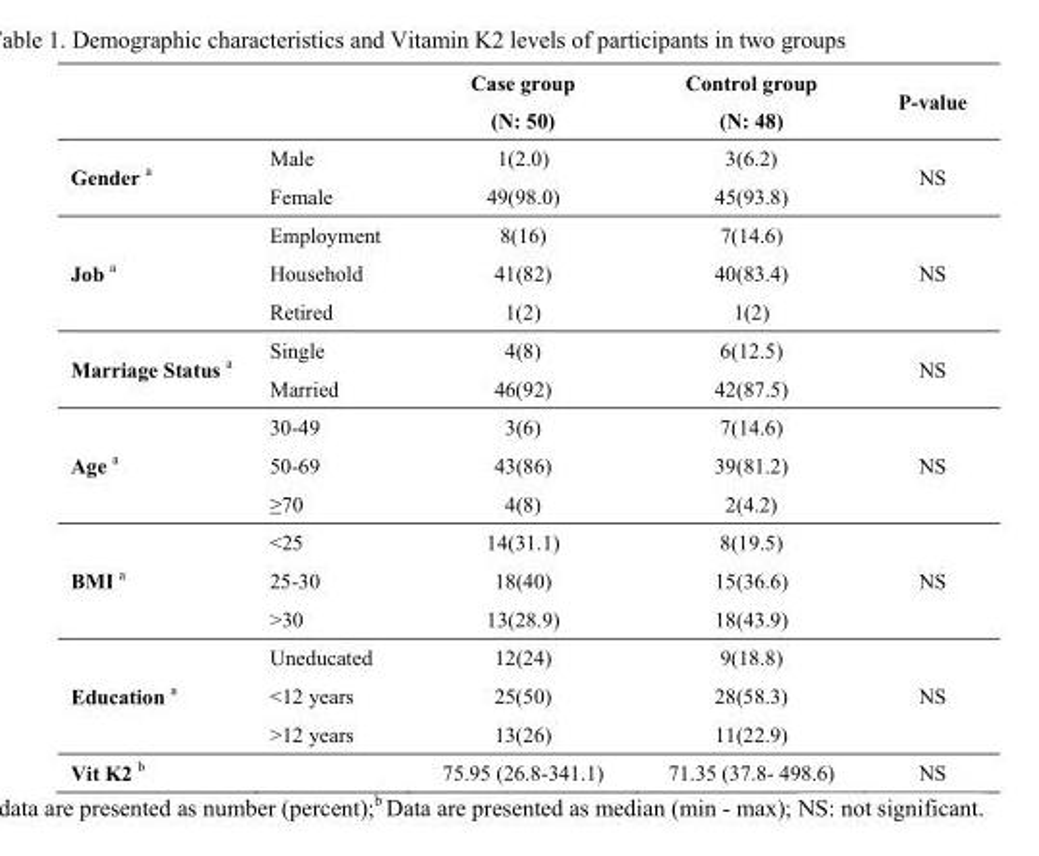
<table><thead><tr><td></td><td></td><td>Case group (N: 50)</td><td>Control group (N: 48)</td><td>P-value</td></tr></thead><tbody><tr><td rowspan="2">Gender <sup>a</sup></td><td>Male</td><td>1(2.0)</td><td>3(6.2)</td><td rowspan="2">NS</td></tr><tr><td>Female</td><td>49(98.0)</td><td>45(93.8)</td></tr><tr><td rowspan="3">Job <sup>a</sup></td><td>Employment</td><td>8(16)</td><td>7(14.6)</td><td rowspan="3">NS</td></tr><tr><td>Household</td><td>41(82)</td><td>40(83.4)</td></tr><tr><td>Retired</td><td>1(2)</td><td>1(2)</td></tr><tr><td rowspan="2">Marriage Status <sup>a</sup></td><td>Single</td><td>4(8)</td><td>6(12.5)</td><td rowspan="2">NS</td></tr><tr><td>Married</td><td>46(92)</td><td>42(87.5)</td></tr><tr><td rowspan="3">Age <sup>a</sup></td><td>30-49</td><td>3(6)</td><td>7(14.6)</td><td rowspan="3">NS</td></tr><tr><td>50-69</td><td>43(86)</td><td>39(81.2)</td></tr><tr><td>≥70</td><td>4(8)</td><td>2(4.2)</td></tr><tr><td rowspan="3">BMI <sup>a</sup></td><td>&lt;25</td><td>14(31.1)</td><td>8(19.5)</td><td rowspan="3">NS</td></tr><tr><td>25-30</td><td>18(40)</td><td>15(36.6)</td></tr><tr><td>&gt;30</td><td>13(28.9)</td><td>18(43.9)</td></tr><tr><td rowspan="3">Education <sup>a</sup></td><td>Uneducated</td><td>12(24)</td><td>9(18.8)</td><td rowspan="3">NS</td></tr><tr><td>&lt;12 years</td><td>25(50)</td><td>28(58.3)</td></tr><tr><td>&gt;12 years</td><td>13(26)</td><td>11(22.9)</td></tr><tr><td>Vit K2 <sup>b</sup></td><td></td><td>75.95 (26.8-341.1)</td><td>71.35 (37.8- 498.6)</td><td>NS</td></tr></tbody></table>